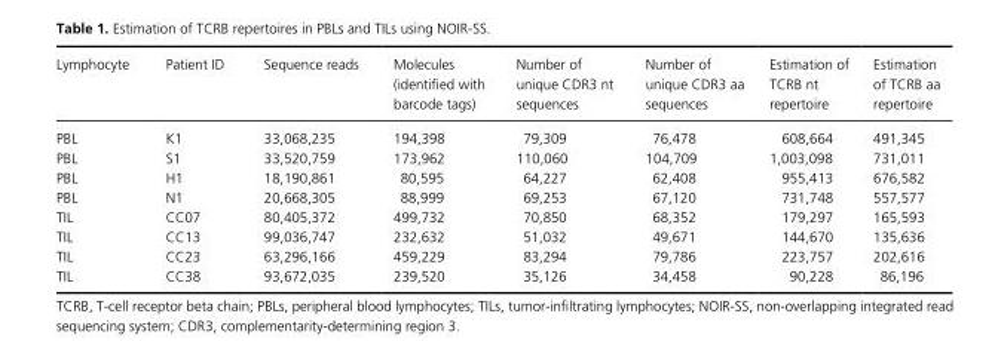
<table><thead><tr><td>Lymphocyte</td><td>Patient ID</td><td>Sequence reads</td><td>Molecules (identified with barcode tags)</td><td>Number of unique CDR3 nt sequences</td><td>Number of unique CDR3 aa sequences</td><td>Estimation of TCRB nt repertoire</td><td>Estimation of TCRB aa repertoire</td></tr></thead><tbody><tr><td>PBL</td><td>K1</td><td>33,068,235</td><td>194,398</td><td>79,309</td><td>76,478</td><td>608,664</td><td>491,345</td></tr><tr><td>PBL</td><td>S1</td><td>33,520,759</td><td>173,962</td><td>110,060</td><td>104,709</td><td>1,003,098</td><td>731,011</td></tr><tr><td>PBL</td><td>H1</td><td>18,190,861</td><td>80,595</td><td>64,227</td><td>62,408</td><td>955,413</td><td>676,582</td></tr><tr><td>PBL</td><td>N1</td><td>20,668,305</td><td>88,999</td><td>69,253</td><td>67,120</td><td>731,748</td><td>557,577</td></tr><tr><td>TIL</td><td>CC07</td><td>80,405,372</td><td>499,732</td><td>70,850</td><td>68,352</td><td>179,297</td><td>165,593</td></tr><tr><td>TIL</td><td>CC13</td><td>99,036,747</td><td>232,632</td><td>51,032</td><td>49,671</td><td>144,670</td><td>135,636</td></tr><tr><td>TIL</td><td>CC23</td><td>63,296,166</td><td>459,229</td><td>83,294</td><td>79,786</td><td>223,757</td><td>202,616</td></tr><tr><td>TIL</td><td>CC38</td><td>93,672,035</td><td>239,520</td><td>35,126</td><td>34,458</td><td>90,228</td><td>86,196</td></tr></tbody></table>